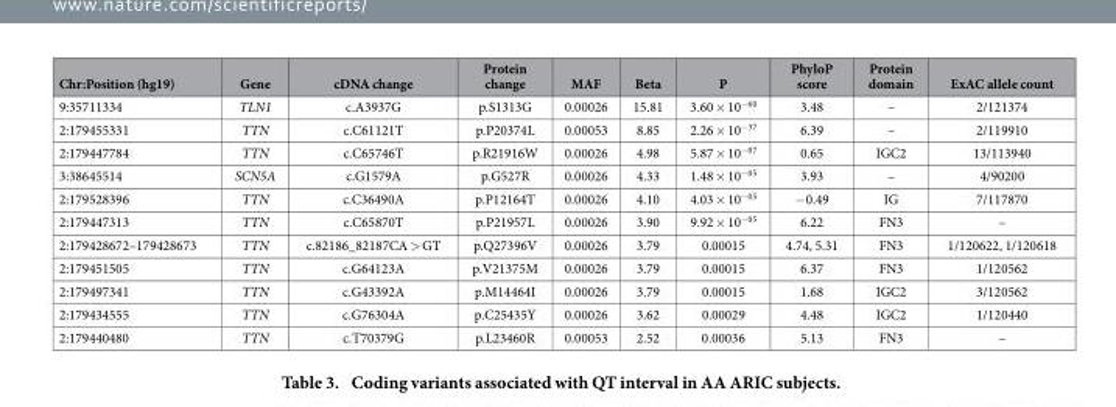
<table><thead><tr><td>Chr:Position (hg19)</td><td>Gene</td><td>cDNA change</td><td>Protein change</td><td>MAF</td><td>Beta</td><td>P</td><td>PhyloP score</td><td>Protein domain</td><td>ExAC allele count</td></tr></thead><tbody><tr><td>9:35711334</td><td>TLN1</td><td>c.A3937G</td><td>p.S1313G</td><td>0.00026</td><td>15.81</td><td>3.60 × 10<sup>−60</sup></td><td>3.48</td><td>–</td><td>2/121374</td></tr><tr><td>2:179455331</td><td>TTN</td><td>c.C61121T</td><td>p.P20374L</td><td>0.00053</td><td>8.85</td><td>2.26 × 10<sup>−37</sup></td><td>6.39</td><td>–</td><td>2/119910</td></tr><tr><td>2:179447784</td><td>TTN</td><td>c.C65746T</td><td>p.R21916W</td><td>0.00026</td><td>4.98</td><td>5.87 × 10<sup>−07</sup></td><td>0.65</td><td>IGC2</td><td>13/113940</td></tr><tr><td>3:38645514</td><td>SCN5A</td><td>c.G1579A</td><td>p.G527R</td><td>0.00026</td><td>4.33</td><td>1.48 × 10<sup>−05</sup></td><td>3.93</td><td>–</td><td>4/90200</td></tr><tr><td>2:179528396</td><td>TTN</td><td>c.C36490A</td><td>p.P12164T</td><td>0.00026</td><td>4.10</td><td>4.03 × 10<sup>−05</sup></td><td>− 0.49</td><td>IG</td><td>7/117870</td></tr><tr><td>2:179447313</td><td>TTN</td><td>c.C65870T</td><td>p.P21957L</td><td>0.00026</td><td>3.90</td><td>9.92 × 10<sup>−05</sup></td><td>6.22</td><td>FN3</td><td>–</td></tr><tr><td>2:179428672–179428673</td><td>TTN</td><td>c.82186_82187CA &gt; GT</td><td>p.Q27396V</td><td>0.00026</td><td>3.79</td><td>0.00015</td><td>4.74, 5.31</td><td>FN3</td><td>1/120622, 1/120618</td></tr><tr><td>2:179451505</td><td>TTN</td><td>c.G64123A</td><td>p.V21375M</td><td>0.00026</td><td>3.79</td><td>0.00015</td><td>6.37</td><td>FN3</td><td>1/120562</td></tr><tr><td>2:179497341</td><td>TTN</td><td>c.G43392A</td><td>p.M14464I</td><td>0.00026</td><td>3.79</td><td>0.00015</td><td>1.68</td><td>IGC2</td><td>3/120562</td></tr><tr><td>2:179434555</td><td>TTN</td><td>c.G76304A</td><td>p.C25435Y</td><td>0.00026</td><td>3.62</td><td>0.00029</td><td>4.48</td><td>IGC2</td><td>1/120440</td></tr><tr><td>2:179440480</td><td>TTN</td><td>c.T70379G</td><td>p.L23460R</td><td>0.00053</td><td>2.52</td><td>0.00036</td><td>5.13</td><td>FN3</td><td>–</td></tr></tbody></table>